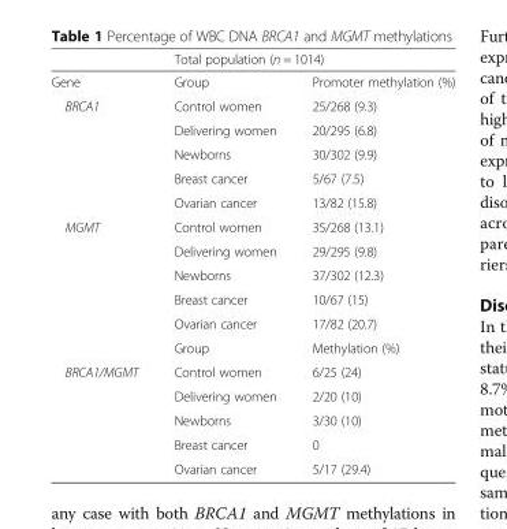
<table><thead><tr><td rowspan="2">Gene</td><td colspan="2">Total population (n = 1014)</td></tr><tr><td>Group</td><td>Promoter methylation (%)</td></tr></thead><tbody><tr><td rowspan="5">BRCA1</td><td>Control women</td><td>25/268 (9.3)</td></tr><tr><td>Delivering women</td><td>20/295 (6.8)</td></tr><tr><td>Newborns</td><td>30/302 (9.9)</td></tr><tr><td>Breast cancer</td><td>5/67 (7.5)</td></tr><tr><td>Ovarian cancer</td><td>13/82 (15.8)</td></tr><tr><td rowspan="6">MGMT</td><td>Control women</td><td>35/268 (13.1)</td></tr><tr><td>Delivering women</td><td>29/295 (9.8)</td></tr><tr><td>Newborns</td><td>37/302 (12.3)</td></tr><tr><td>Breast cancer</td><td>10/67 (15)</td></tr><tr><td>Ovarian cancer</td><td>17/82 (20.7)</td></tr><tr><td>Group</td><td>Methylation (%)</td></tr><tr><td rowspan="5">BRCA1/MGMT</td><td>Control women</td><td>6/25 (24)</td></tr><tr><td>Delivering women</td><td>2/20 (10)</td></tr><tr><td>Newborns</td><td>3/30 (10)</td></tr><tr><td>Breast cancer</td><td>0</td></tr><tr><td>Ovarian cancer</td><td>5/17 (29.4)</td></tr></tbody></table>